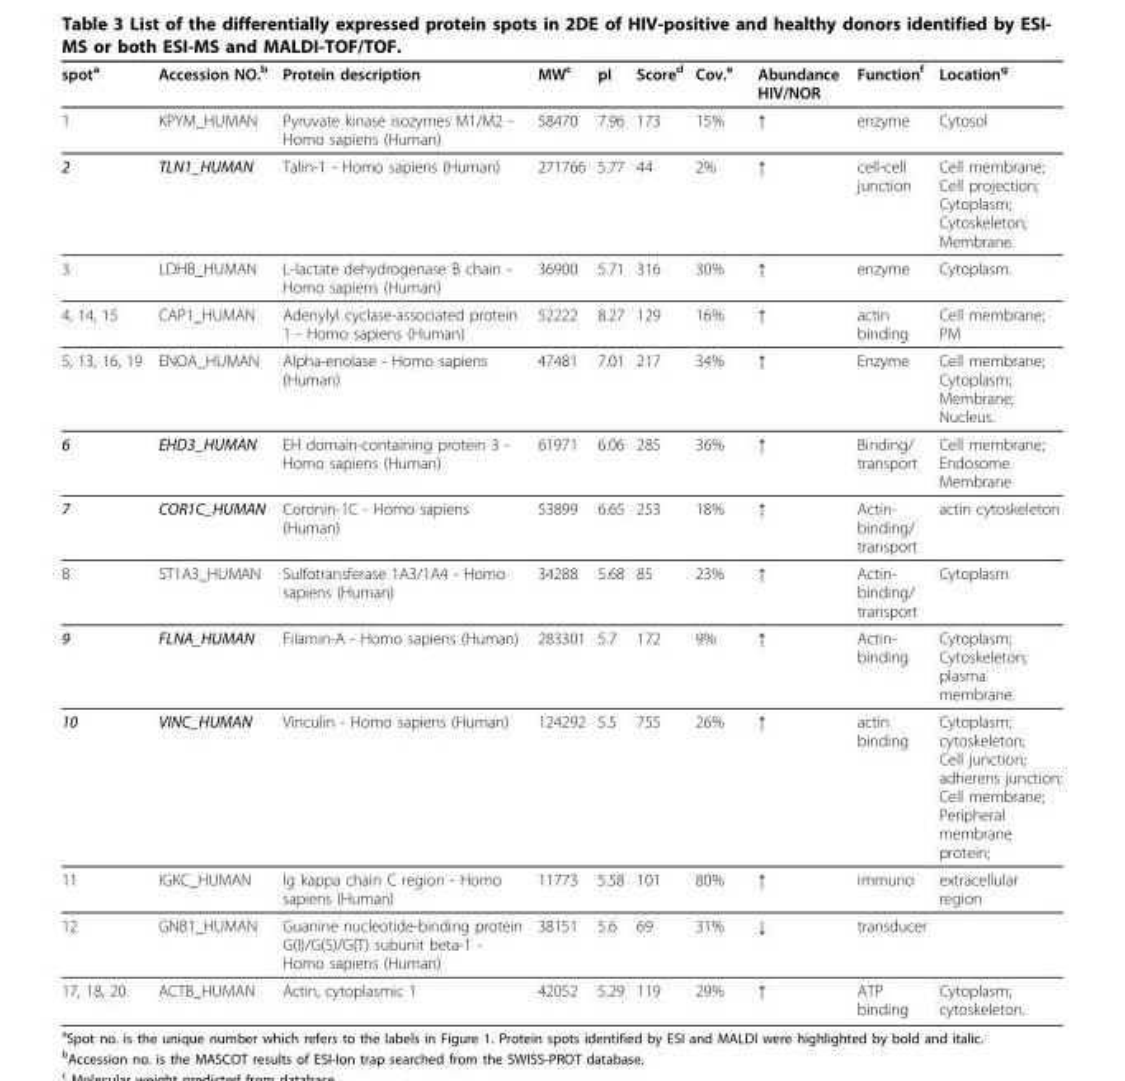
<table><thead><tr><td>spot<sup>a</sup></td><td>Accession NO.<sup>b</sup></td><td>Protein description</td><td>MW<sup>c</sup></td><td>pI</td><td>Score<sup>d</sup></td><td>Cov.<sup>e</sup></td><td>Abundance HIV/NOR</td><td>Function<sup>f</sup></td><td>Location<sup>g</sup></td></tr></thead><tbody><tr><td>1</td><td>KPYM_HUMAN</td><td>Pyruvate kinase isozymes M1/M2 - Homo sapiens (Human)</td><td>58470</td><td>7.96</td><td>173</td><td>15%</td><td>↑</td><td>enzyme</td><td>Cytosol</td></tr><tr><td>2</td><td>TLN1_HUMAN</td><td>Talin-1 - Homo sapiens (Human)</td><td>271766</td><td>5.77</td><td>44</td><td>2%</td><td>↑</td><td>cell-cell junction</td><td>Cell membrane; Cell projection; Cytoplasm; Cytoskeleton; Membrane.</td></tr><tr><td>3</td><td>LDHB_HUMAN</td><td>L-lactate dehydrogenase B chain - Homo sapiens (Human)</td><td>36900</td><td>5.71</td><td>316</td><td>30%</td><td>↑</td><td>enzyme</td><td>Cytoplasm.</td></tr><tr><td>4, 14, 15</td><td>CAP1_HUMAN</td><td>Adenylyl cyclase-associated protein 1 - Homo sapiens (Human)</td><td>52222</td><td>8.27</td><td>129</td><td>16%</td><td>↑</td><td>actin binding</td><td>Cell membrane; PM</td></tr><tr><td>5, 13, 16, 19</td><td>ENOA_HUMAN</td><td>Alpha-enolase - Homo sapiens (Human)</td><td>47481</td><td>7.01</td><td>217</td><td>34%</td><td>↑</td><td>Enzyme</td><td>Cell membrane; Cytoplasm; Membrane; Nucleus.</td></tr><tr><td>6</td><td>EHD3_HUMAN</td><td>EH domain-containing protein 3 - Homo sapiens (Human)</td><td>61971</td><td>6.06</td><td>285</td><td>36%</td><td>↑</td><td>Binding/ transport</td><td>Cell membrane; Endosome. Membrane</td></tr><tr><td>7</td><td>COR1C_HUMAN</td><td>Coronin-1C - Homo sapiens (Human)</td><td>53899</td><td>6.65</td><td>253</td><td>18%</td><td>↑</td><td>Actin- binding/ transport</td><td>actin cytoskeleton</td></tr><tr><td>8</td><td>ST1A3_HUMAN</td><td>Sulfotransferase 1A3/1A4 - Homo sapiens (Human)</td><td>34288</td><td>5.68</td><td>85</td><td>23%</td><td>↑</td><td>Actin- binding/ transport</td><td>Cytoplasm</td></tr><tr><td>9</td><td>FLNA_HUMAN</td><td>Filamin-A - Homo sapiens (Human)</td><td>283301</td><td>5.7</td><td>172</td><td>9%</td><td>↑</td><td>Actin- binding</td><td>Cytoplasm; Cytoskeleton; plasma membrane.</td></tr><tr><td>10</td><td>VINC_HUMAN</td><td>Vinculin - Homo sapiens (Human)</td><td>124292</td><td>5.5</td><td>755</td><td>26%</td><td>↑</td><td>actin binding</td><td>Cytoplasm; cytoskeleton; Cell junction; adherens junction; Cell membrane; Peripheral membrane protein;</td></tr><tr><td>11</td><td>IGKC_HUMAN</td><td>Ig kappa chain C region - Homo sapiens (Human)</td><td>11773</td><td>5.58</td><td>101</td><td>80%</td><td>↑</td><td>immuno</td><td>extracellular region</td></tr><tr><td>12</td><td>GNB1_HUMAN</td><td>Guanine nucleotide-binding protein G(I)/G(S)/G(T) subunit beta-1 - Homo sapiens (Human)</td><td>38151</td><td>5.6</td><td>69</td><td>31%</td><td>↓</td><td>transducer</td><td></td></tr><tr><td>17, 18, 20</td><td>ACTB_HUMAN</td><td>Actin, cytoplasmic 1</td><td>42052</td><td>5.29</td><td>119</td><td>29%</td><td>↑</td><td>ATP binding</td><td>Cytoplasm; cytoskeleton.</td></tr></tbody></table>